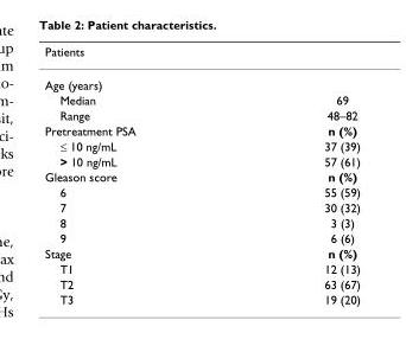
<table><thead><tr><td>Patients</td><td></td></tr></thead><tbody><tr><td colspan="2">Age (years)</td></tr><tr><td>Median</td><td>69</td></tr><tr><td>Range</td><td>48–82</td></tr><tr><td>Pretreatment PSA</td><td>n (%)</td></tr><tr><td>≤ 10 ng/mL</td><td>37 (39)</td></tr><tr><td>&gt; 10 ng/mL</td><td>57 (61)</td></tr><tr><td>Gleason score</td><td>n (%)</td></tr><tr><td>6</td><td>55 (59)</td></tr><tr><td>7</td><td>30 (32)</td></tr><tr><td>8</td><td>3 (3)</td></tr><tr><td>9</td><td>6 (6)</td></tr><tr><td>Stage</td><td>n (%)</td></tr><tr><td>T1</td><td>12 (13)</td></tr><tr><td>T2</td><td>63 (67)</td></tr><tr><td>T3</td><td>19 (20)</td></tr></tbody></table>